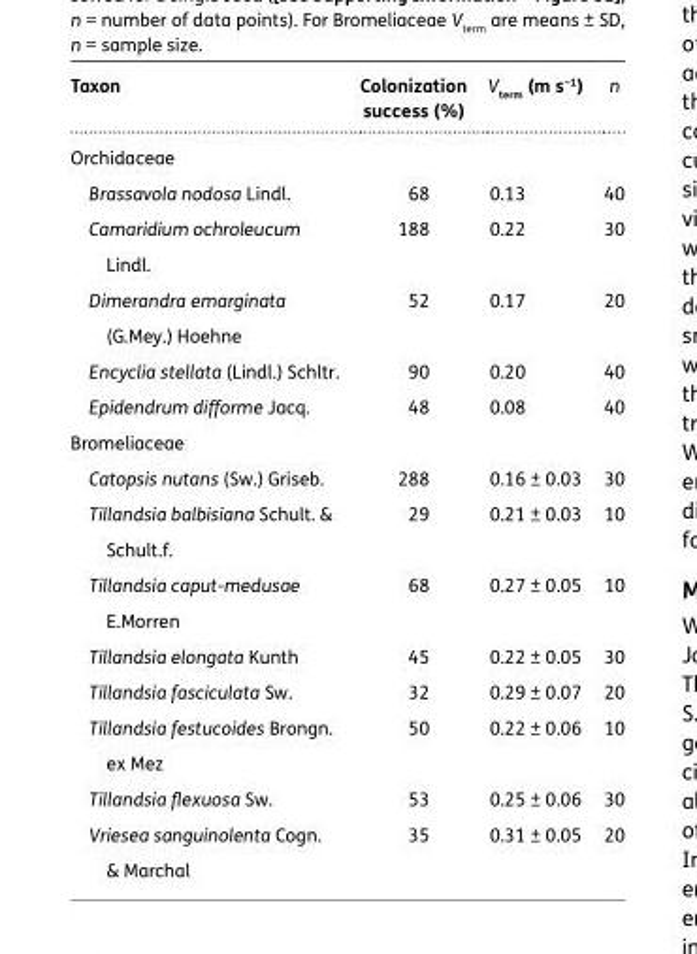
<table><thead><tr><td>Taxon</td><td>Colonization success (%)</td><td>V<sub>term</sub> (m s<sup>−1</sup>)</td><td>n</td></tr></thead><tbody><tr><td colspan="4">Orchidaceae</td></tr><tr><td>Brassavola nodosa Lindl.</td><td>68</td><td>0.13</td><td>40</td></tr><tr><td>Camaridium ochroleucum Lindl.</td><td>188</td><td>0.22</td><td>30</td></tr><tr><td>Dimerandra emarginata (G.Mey.) Hoehne</td><td>52</td><td>0.17</td><td>20</td></tr><tr><td>Encyclia stellata (Lindl.) Schltr.</td><td>90</td><td>0.20</td><td>40</td></tr><tr><td>Epidendrum difforme Jacq.</td><td>48</td><td>0.08</td><td>40</td></tr><tr><td colspan="4">Bromeliaceae</td></tr><tr><td>Catopsis nutans (Sw.) Griseb.</td><td>288</td><td>0.16 ± 0.03</td><td>30</td></tr><tr><td>Tillandsia balbisiana Schult. &amp; Schult.f.</td><td>29</td><td>0.21 ± 0.03</td><td>10</td></tr><tr><td>Tillandsia caput-medusae E.Morren</td><td>68</td><td>0.27 ± 0.05</td><td>10</td></tr><tr><td>Tillandsia elongata Kunth</td><td>45</td><td>0.22 ± 0.05</td><td>30</td></tr><tr><td>Tillandsia fasciculata Sw.</td><td>32</td><td>0.29 ± 0.07</td><td>20</td></tr><tr><td>Tillandsia festucoides Brongn. ex Mez</td><td>50</td><td>0.22 ± 0.06</td><td>10</td></tr><tr><td>Tillandsia flexuosa Sw.</td><td>53</td><td>0.25 ± 0.06</td><td>30</td></tr><tr><td>Vriesea sanguinolenta Cogn. &amp; Marchal</td><td>35</td><td>0.31 ± 0.05</td><td>20</td></tr></tbody></table>